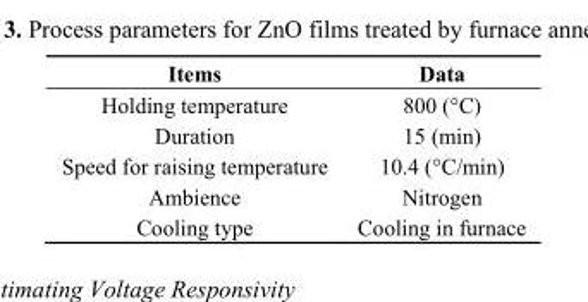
<table><thead><tr><td>Items</td><td>Data</td></tr></thead><tbody><tr><td>Holding temperature</td><td>800 (°C)</td></tr><tr><td>Duration</td><td>15 (min)</td></tr><tr><td>Speed for raising temperature</td><td>10.4 (°C/min)</td></tr><tr><td>Ambience</td><td>Nitrogen</td></tr><tr><td>Cooling type</td><td>Cooling in furnace</td></tr></tbody></table>